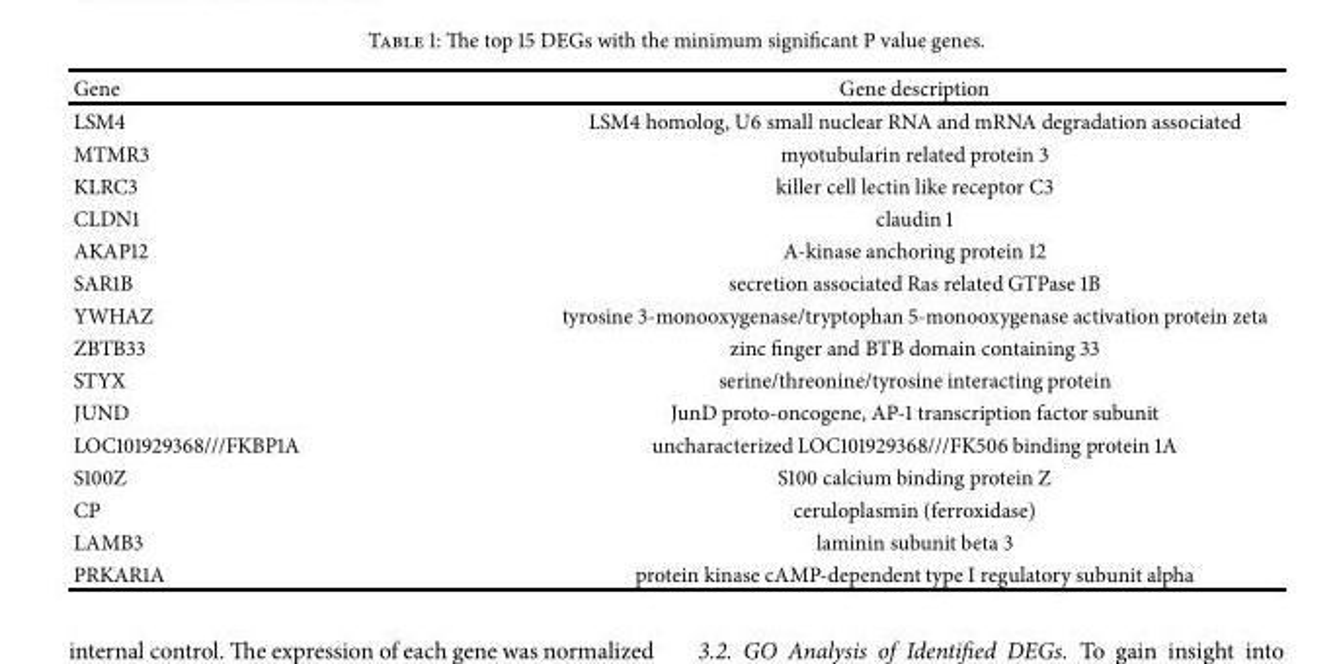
<table><thead><tr><td>Gene</td><td>Gene description</td></tr></thead><tbody><tr><td>LSM4</td><td>LSM4 homolog, U6 small nuclear RNA and mRNA degradation associated</td></tr><tr><td>MTMR3</td><td>myotubularin related protein 3</td></tr><tr><td>KLRC3</td><td>killer cell lectin like receptor C3</td></tr><tr><td>CLDN1</td><td>claudin 1</td></tr><tr><td>AKAP12</td><td>A-kinase anchoring protein 12</td></tr><tr><td>SAR1B</td><td>secretion associated Ras related GTPase 1B</td></tr><tr><td>YWHAZ</td><td>tyrosine 3-monooxygenase/tryptophan 5-monooxygenase activation protein zeta</td></tr><tr><td>ZBTB33</td><td>zinc finger and BTB domain containing 33</td></tr><tr><td>STYX</td><td>serine/threonine/tyrosine interacting protein</td></tr><tr><td>JUND</td><td>JunD proto-oncogene, AP-1 transcription factor subunit</td></tr><tr><td>LOC101929368///FKBP1A</td><td>uncharacterized LOC101929368///FK506 binding protein 1A</td></tr><tr><td>S100Z</td><td>S100 calcium binding protein Z</td></tr><tr><td>CP</td><td>ceruloplasmin (ferroxidase)</td></tr><tr><td>LAMB3</td><td>laminin subunit beta 3</td></tr><tr><td>PRKAR1A</td><td>protein kinase cAMP-dependent type I regulatory subunit alpha</td></tr></tbody></table>